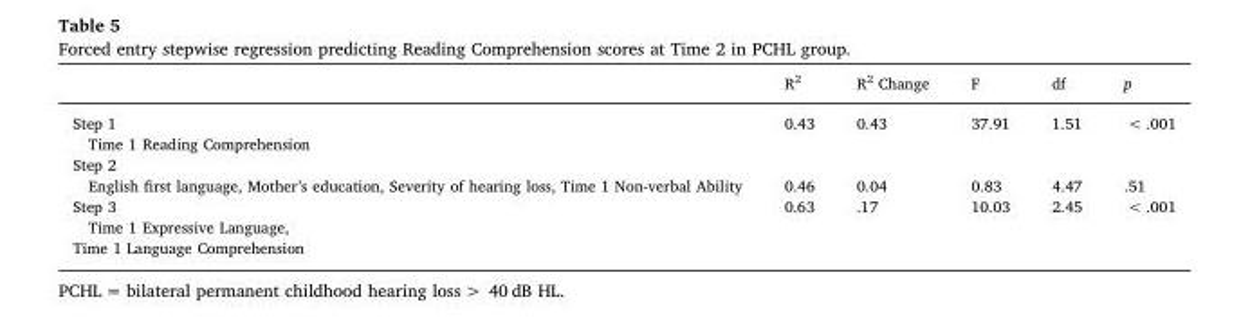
<table><thead><tr><td></td><td>R<sup>2</sup></td><td>R<sup>2</sup> Change</td><td>F</td><td>df</td><td>p</td></tr></thead><tbody><tr><td>Step 1</td><td>0.43</td><td>0.43</td><td>37.91</td><td>1.51</td><td>&lt; .001</td></tr><tr><td colspan="6">Time 1 Reading Comprehension</td></tr><tr><td colspan="6">Step 2</td></tr><tr><td>English first language, Mother’s education, Severity of hearing loss, Time 1 Non-verbal Ability</td><td>0.46</td><td>0.04</td><td>0.83</td><td>4.47</td><td>.51</td></tr><tr><td>Step 3</td><td>0.63</td><td>.17</td><td>10.03</td><td>2.45</td><td>&lt; .001</td></tr><tr><td colspan="6">Time 1 Expressive Language,</td></tr><tr><td>Time 1 Language Comprehension</td><td></td><td></td><td></td><td></td><td></td></tr></tbody></table>